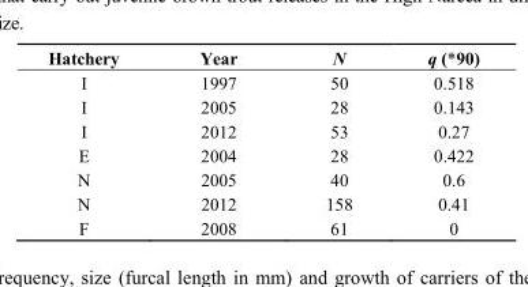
<table><thead><tr><td>Hatchery</td><td>Year</td><td>N</td><td>q (*90)</td></tr></thead><tbody><tr><td>I</td><td>1997</td><td>50</td><td>0.518</td></tr><tr><td>I</td><td>2005</td><td>28</td><td>0.143</td></tr><tr><td>I</td><td>2012</td><td>53</td><td>0.27</td></tr><tr><td>E</td><td>2004</td><td>28</td><td>0.422</td></tr><tr><td>N</td><td>2005</td><td>40</td><td>0.6</td></tr><tr><td>N</td><td>2012</td><td>158</td><td>0.41</td></tr><tr><td>F</td><td>2008</td><td>61</td><td>0</td></tr></tbody></table>